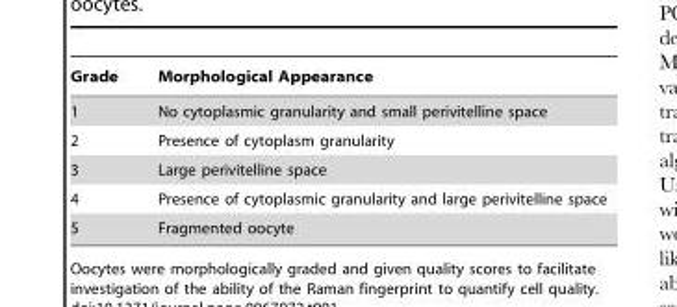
<table><thead><tr><td>Grade</td><td>Morphological Appearance</td></tr></thead><tbody><tr><td>1</td><td>No cytoplasmic granularity and small perivitelline space</td></tr><tr><td>2</td><td>Presence of cytoplasm granularity</td></tr><tr><td>3</td><td>Large perivitelline space</td></tr><tr><td>4</td><td>Presence of cytoplasmic granularity and large perivitelline space</td></tr><tr><td>5</td><td>Fragmented oocyte</td></tr></tbody></table>